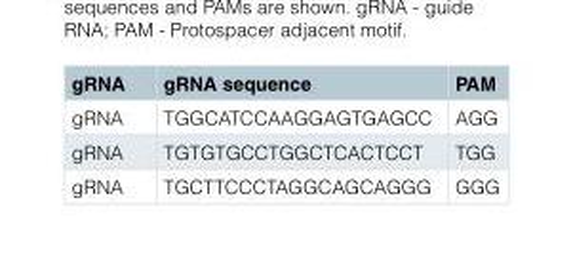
<table><thead><tr><td>gRNA</td><td>gRNA sequence</td><td>PAM</td></tr></thead><tbody><tr><td>gRNA</td><td>TGGCATCCAAGGAGTGAGCC</td><td>AGG</td></tr><tr><td>gRNA</td><td>TGTGTGCCTGGCTCACTCCT</td><td>TGG</td></tr><tr><td>gRNA</td><td>TGCTTCCCTAGGCAGCAGGG</td><td>GGG</td></tr></tbody></table>